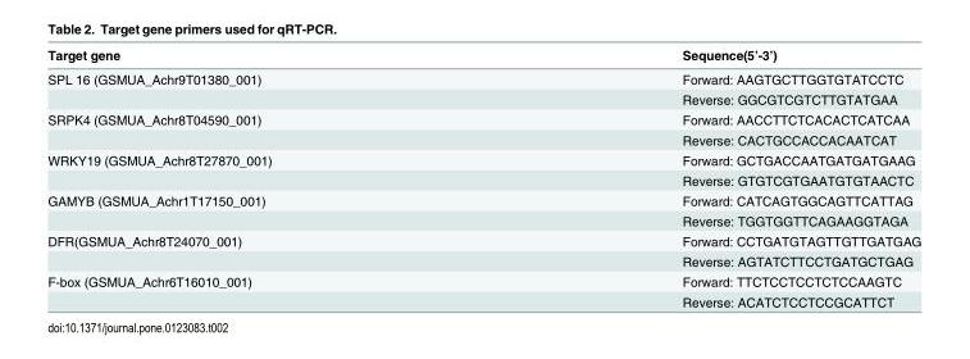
<table><thead><tr><td>Target gene</td><td>Sequence(5’-3’)</td></tr></thead><tbody><tr><td rowspan="2">SPL 16 (GSMUA_Achr9T01380_001)</td><td>Forward: AAGTGCTTGGTGTATCCTC</td></tr><tr><td>Reverse: GGCGTCGTCTTGTATGAA</td></tr><tr><td rowspan="2">SRPK4 (GSMUA_Achr8T04590_001)</td><td>Forward: AACCTTCTCACACTCATCAA</td></tr><tr><td>Reverse: CACTGCCACCACAATCAT</td></tr><tr><td rowspan="2">WRKY19 (GSMUA_Achr8T27870_001)</td><td>Forward: GCTGACCAATGATGATGAAG</td></tr><tr><td>Reverse: GTGTCGTGAATGTGTAACTC</td></tr><tr><td rowspan="2">GAMYB (GSMUA_Achr1T17150_001)</td><td>Forward: CATCAGTGGCAGTTCATTAG</td></tr><tr><td>Reverse: TGGTGGTTCAGAAGGTAGA</td></tr><tr><td rowspan="2">DFR(GSMUA_Achr8T24070_001)</td><td>Forward: CCTGATGTAGTTGTTGATGAG</td></tr><tr><td>Reverse: AGTATCTTCCTGATGCTGAG</td></tr><tr><td rowspan="2">F-box (GSMUA_Achr6T16010_001)</td><td>Forward: TTCTCCTCCTCTCCAAGTC</td></tr><tr><td>Reverse: ACATCTCCTCCGCATTCT</td></tr></tbody></table>